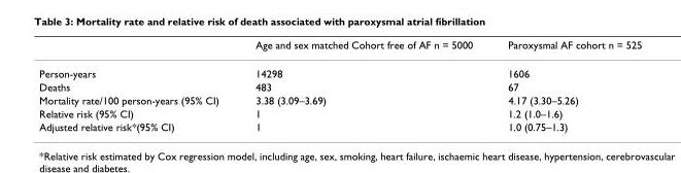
<table><thead><tr><td></td><td>Age and sex matched Cohort free of AF n = 5000</td><td>Paroxysmal AF cohort n = 525</td></tr></thead><tbody><tr><td>Person-years</td><td>14298</td><td>1606</td></tr><tr><td>Deaths</td><td>483</td><td>67</td></tr><tr><td>Mortality rate/100 person-years (95% CI)</td><td>3.38 (3.09–3.69)</td><td>4.17 (3.30–5.26)</td></tr><tr><td>Relative risk (95% CI)</td><td>1</td><td>1.2 (1.0–1.6)</td></tr><tr><td>Adjusted relative risk*(95% CI)</td><td>1</td><td>1.0 (0.75–1.3)</td></tr></tbody></table>